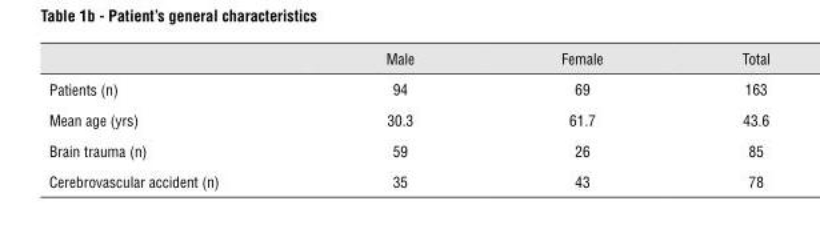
<table><thead><tr><td></td><td>Male</td><td>Female</td><td>Total</td></tr></thead><tbody><tr><td>Patients (n)</td><td>94</td><td>69</td><td>163</td></tr><tr><td>Mean age (yrs)</td><td>30.3</td><td>61.7</td><td>43.6</td></tr><tr><td>Brain trauma (n)</td><td>59</td><td>26</td><td>85</td></tr><tr><td>Cerebrovascular accident (n)</td><td>35</td><td>43</td><td>78</td></tr></tbody></table>